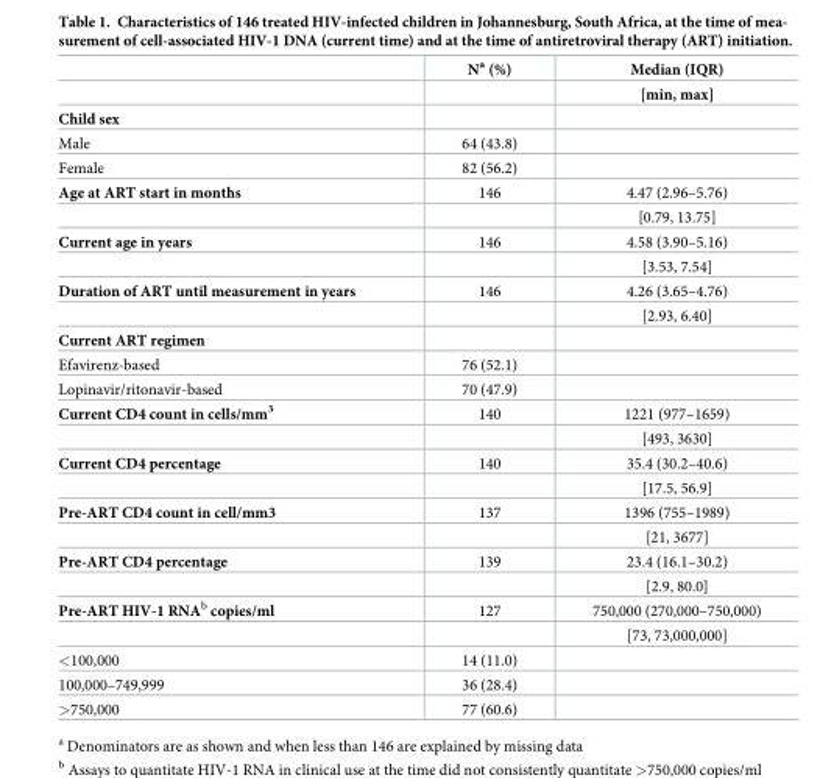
<table><thead><tr><td rowspan="2"></td><td rowspan="2">N<sup>a</sup> (%)</td><td rowspan="2">Median (IQR) [min, max]</td></tr><tr></tr></thead><tbody><tr><td colspan="3">Child sex</td></tr><tr><td>Male</td><td>64 (43.8)</td><td></td></tr><tr><td>Female</td><td>82 (56.2)</td><td></td></tr><tr><td rowspan="2">Age at ART start in months</td><td>146</td><td>4.47 (2.96–5.76)</td></tr><tr><td></td><td>[0.79, 13.75]</td></tr><tr><td rowspan="2">Current age in years</td><td>146</td><td>4.58 (3.90–5.16)</td></tr><tr><td></td><td>[3.53, 7.54]</td></tr><tr><td rowspan="2">Duration of ART until measurement in years</td><td>146</td><td>4.26 (3.65–4.76)</td></tr><tr><td></td><td>[2.93, 6.40]</td></tr><tr><td colspan="3">Current ART regimen</td></tr><tr><td>Efavirenz-based</td><td>76 (52.1)</td><td></td></tr><tr><td>Lopinavir/ritonavir-based</td><td>70 (47.9)</td><td></td></tr><tr><td rowspan="2">Current CD4 count in cells/mm<sup>3</sup></td><td>140</td><td>1221 (977–1659)</td></tr><tr><td></td><td>[493, 3630]</td></tr><tr><td rowspan="2">Current CD4 percentage</td><td>140</td><td>35.4 (30.2–40.6)</td></tr><tr><td></td><td>[17.5, 56.9]</td></tr><tr><td rowspan="2">Pre-ART CD4 count in cell/mm3</td><td>137</td><td>1396 (755–1989)</td></tr><tr><td></td><td>[21, 3677]</td></tr><tr><td rowspan="2">Pre-ART CD4 percentage</td><td>139</td><td>23.4 (16.1–30.2)</td></tr><tr><td></td><td>[2.9, 80.0]</td></tr><tr><td rowspan="2">Pre-ART HIV-1 RNA<sup>b</sup> copies/ml</td><td>127</td><td>750,000 (270,000–750,000)</td></tr><tr><td></td><td>[73, 73,000,000]</td></tr><tr><td>&lt;100,000</td><td>14 (11.0)</td><td></td></tr><tr><td>100,000–749,999</td><td>36 (28.4)</td><td></td></tr><tr><td>&gt;750,000</td><td>77 (60.6)</td><td></td></tr></tbody></table>